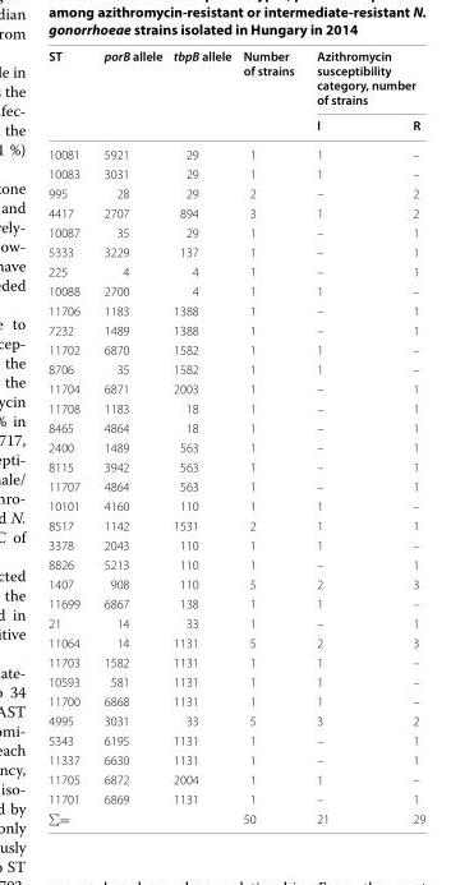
<table><thead><tr><td rowspan="2">ST</td><td rowspan="2">porB allele</td><td rowspan="2">tbpB allele</td><td rowspan="2">Number of strains</td><td colspan="2">Azithromycin susceptibility category, number of strains</td></tr><tr><td>I</td><td>R</td></tr></thead><tbody><tr><td>10081</td><td>5921</td><td>29</td><td>1</td><td>1</td><td>–</td></tr><tr><td>10083</td><td>3031</td><td>29</td><td>1</td><td>1</td><td>–</td></tr><tr><td>995</td><td>28</td><td>29</td><td>2</td><td>–</td><td>2</td></tr><tr><td>4417</td><td>2707</td><td>894</td><td>3</td><td>1</td><td>2</td></tr><tr><td>10087</td><td>35</td><td>29</td><td>1</td><td>–</td><td>1</td></tr><tr><td>5333</td><td>3229</td><td>137</td><td>1</td><td>–</td><td>1</td></tr><tr><td>225</td><td>4</td><td>4</td><td>1</td><td>–</td><td>1</td></tr><tr><td>10088</td><td>2700</td><td>4</td><td>1</td><td>1</td><td>–</td></tr><tr><td>11706</td><td>1183</td><td>1388</td><td>1</td><td>–</td><td>1</td></tr><tr><td>7232</td><td>1489</td><td>1388</td><td>1</td><td>–</td><td>1</td></tr><tr><td>11702</td><td>6870</td><td>1582</td><td>1</td><td>1</td><td>–</td></tr><tr><td>8706</td><td>35</td><td>1582</td><td>1</td><td>1</td><td>–</td></tr><tr><td>11704</td><td>6871</td><td>2003</td><td>1</td><td>–</td><td>1</td></tr><tr><td>11708</td><td>1183</td><td>18</td><td>1</td><td>–</td><td>1</td></tr><tr><td>8465</td><td>4864</td><td>18</td><td>1</td><td>–</td><td>1</td></tr><tr><td>2400</td><td>1489</td><td>563</td><td>1</td><td>–</td><td>1</td></tr><tr><td>8115</td><td>3942</td><td>563</td><td>1</td><td>–</td><td>1</td></tr><tr><td>11707</td><td>4864</td><td>563</td><td>1</td><td>–</td><td>1</td></tr><tr><td>10101</td><td>4160</td><td>110</td><td>1</td><td>1</td><td>–</td></tr><tr><td>8517</td><td>1142</td><td>1531</td><td>2</td><td>1</td><td>1</td></tr><tr><td>3378</td><td>2043</td><td>110</td><td>1</td><td>1</td><td>–</td></tr><tr><td>8826</td><td>5213</td><td>110</td><td>1</td><td>–</td><td>1</td></tr><tr><td>1407</td><td>908</td><td>110</td><td>5</td><td>2</td><td>3</td></tr><tr><td>11699</td><td>6867</td><td>138</td><td>1</td><td>1</td><td>–</td></tr><tr><td>21</td><td>14</td><td>33</td><td>1</td><td>–</td><td>1</td></tr><tr><td>11064</td><td>14</td><td>1131</td><td>5</td><td>2</td><td>3</td></tr><tr><td>11703</td><td>1582</td><td>1131</td><td>1</td><td>1</td><td>–</td></tr><tr><td>10593</td><td>581</td><td>1131</td><td>1</td><td>1</td><td>–</td></tr><tr><td>11700</td><td>6868</td><td>1131</td><td>1</td><td>1</td><td>–</td></tr><tr><td>4995</td><td>3031</td><td>33</td><td>5</td><td>3</td><td>2</td></tr><tr><td>5343</td><td>6195</td><td>1131</td><td>1</td><td>–</td><td>1</td></tr><tr><td>11337</td><td>6630</td><td>1131</td><td>1</td><td>–</td><td>1</td></tr><tr><td>11705</td><td>6872</td><td>2004</td><td>1</td><td>1</td><td>–</td></tr><tr><td>11701</td><td>6869</td><td>1131</td><td>1</td><td>–</td><td>1</td></tr><tr><td colspan="3">∑=</td><td>50</td><td>21</td><td>29</td></tr></tbody></table>